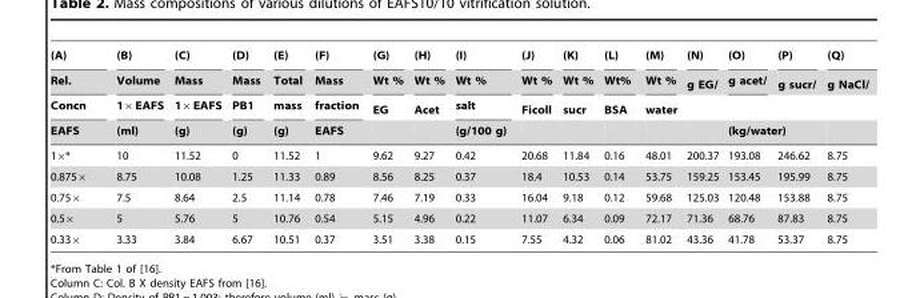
<table><thead><tr><td rowspan="4">(A) Rel. Concn EAFS</td><td rowspan="4">(B) Volume 1×EAFS (ml)</td><td rowspan="4">(C) Mass 1×EAFS (g)</td><td rowspan="4">(D) Mass PB1 (g)</td><td rowspan="4">(E) Total mass (g)</td><td rowspan="4">(F) Mass fraction EAFS</td><td rowspan="4">(G) Wt % EG</td><td rowspan="4">(H) Wt % Acet</td><td rowspan="4">(I) Wt % salt (g/100 g)</td><td rowspan="4">(J) Wt % Ficoll</td><td rowspan="4">(K) Wt % sucr</td><td rowspan="4">(L) Wt% BSA</td><td rowspan="4">(M) Wt % water</td><td rowspan="4">(N) g EG/</td><td rowspan="3">(O) g acet/</td><td rowspan="3">(P) g sucr/</td><td rowspan="4">(Q) g NaCl/</td></tr><tr></tr><tr></tr><tr><td colspan="2">(kg/water)</td></tr></thead><tbody><tr><td>1×*</td><td>10</td><td>11.52</td><td>0</td><td>11.52</td><td>1</td><td>9.62</td><td>9.27</td><td>0.42</td><td>20.68</td><td>11.84</td><td>0.16</td><td>48.01</td><td>200.37</td><td>193.08</td><td>246.62</td><td>8.75</td></tr><tr><td>0.875×</td><td>8.75</td><td>10.08</td><td>1.25</td><td>11.33</td><td>0.89</td><td>8.56</td><td>8.25</td><td>0.37</td><td>18.4</td><td>10.53</td><td>0.14</td><td>53.75</td><td>159.25</td><td>153.45</td><td>195.99</td><td>8.75</td></tr><tr><td>0.75×</td><td>7.5</td><td>8.64</td><td>2.5</td><td>11.14</td><td>0.78</td><td>7.46</td><td>7.19</td><td>0.33</td><td>16.04</td><td>9.18</td><td>0.12</td><td>59.68</td><td>125.03</td><td>120.48</td><td>153.88</td><td>8.75</td></tr><tr><td>0.5×</td><td>5</td><td>5.76</td><td>5</td><td>10.76</td><td>0.54</td><td>5.15</td><td>4.96</td><td>0.22</td><td>11.07</td><td>6.34</td><td>0.09</td><td>72.17</td><td>71.36</td><td>68.76</td><td>87.83</td><td>8.75</td></tr><tr><td>0.33×</td><td>3.33</td><td>3.84</td><td>6.67</td><td>10.51</td><td>0.37</td><td>3.51</td><td>3.38</td><td>0.15</td><td>7.55</td><td>4.32</td><td>0.06</td><td>81.02</td><td>43.36</td><td>41.78</td><td>53.37</td><td>8.75</td></tr></tbody></table>